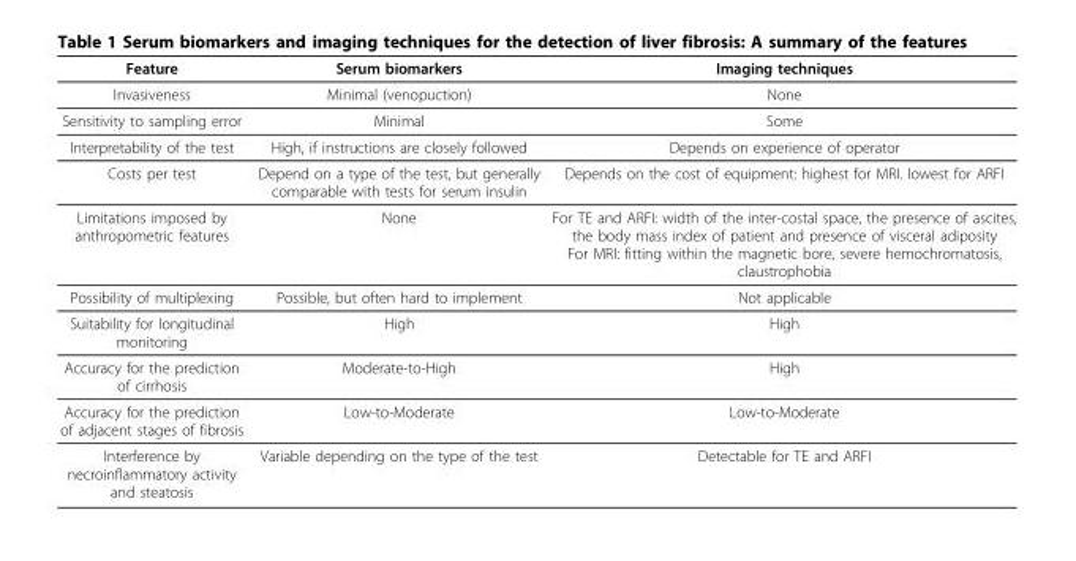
<table><thead><tr><td>Feature</td><td>Serum biomarkers</td><td>Imaging techniques</td></tr></thead><tbody><tr><td>Invasiveness</td><td>Minimal (venopuction)</td><td>None</td></tr><tr><td>Sensitivity to sampling error</td><td>Minimal</td><td>Some</td></tr><tr><td>Interpretability of the test</td><td>High, if instructions are closely followed</td><td>Depends on experience of operator</td></tr><tr><td>Costs per test</td><td>Depend on a type of the test, but generally comparable with tests for serum insulin</td><td>Depends on the cost of equipment: highest for MRI. lowest for ARFI</td></tr><tr><td>Limitations imposed by anthropometric features</td><td>None</td><td>For TE and ARFI: width of the inter-costal space, the presence of ascites, the body mass index of patient and presence of visceral adiposity For MRI: fitting within the magnetic bore, severe hemochromatosis, claustrophobia</td></tr><tr><td>Possibility of multiplexing</td><td>Possible, but often hard to implement</td><td>Not applicable</td></tr><tr><td>Suitability for longitudinal monitoring</td><td>High</td><td>High</td></tr><tr><td>Accuracy for the prediction of cirrhosis</td><td>Moderate-to-High</td><td>High</td></tr><tr><td>Accuracy for the prediction of adjacent stages of fibrosis</td><td>Low-to-Moderate</td><td>Low-to-Moderate</td></tr><tr><td>Interference by necroinflammatory activity and steatosis</td><td>Variable depending on the type of the test</td><td>Detectable for TE and ARFI</td></tr></tbody></table>